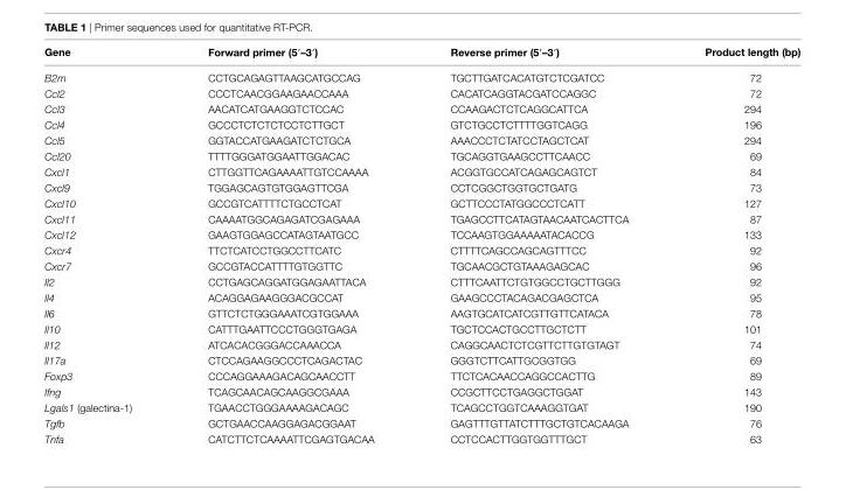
<table><thead><tr><td>gene</td><td>Forward primer (5′–3′)</td><td>reverse primer (5′–3′)</td><td>Product length (bp)</td></tr></thead><tbody><tr><td>B2m</td><td>CCTGCAGAGTTAAGCATGCCAG</td><td>TGCTTGATCACATGTCTCGATCC</td><td>72</td></tr><tr><td>Ccl2</td><td>CCCTCAACGGAAGAACCAAA</td><td>CACATCAGGTACGATCCAGGC</td><td>72</td></tr><tr><td>Ccl3</td><td>AACATCATGAAGGTCTCCAC</td><td>CCAAGACTCTCAGGCATTCA</td><td>294</td></tr><tr><td>Ccl4</td><td>GCCCTCTCTCTCCTCTTGCT</td><td>GTCTGCCTCTTTTGGTCAGG</td><td>196</td></tr><tr><td>Ccl5</td><td>GGTACCATGAAGATCTCTGCA</td><td>AAACCCTCTATCCTAGCTCAT</td><td>294</td></tr><tr><td>Ccl20</td><td>TTTTGGGATGGAATTGGACAC</td><td>TGCAGGTGAAGCCTTCAACC</td><td>69</td></tr><tr><td>Cxcl1</td><td>CTTGGTTCAGAAAATTGTCCAAAA</td><td>ACGGTGCCATCAGAGCAGTCT</td><td>84</td></tr><tr><td>Cxcl9</td><td>TGGAGCAGTGTGGAGTTCGA</td><td>CCTCGGCTGGTGCTGATG</td><td>73</td></tr><tr><td>Cxcl10</td><td>GCCGTCATTTTCTGCCTCAT</td><td>GCTTCCCTATGGCCCTCATT</td><td>127</td></tr><tr><td>Cxcl11</td><td>CAAAATGGCAGAGATCGAGAAA</td><td>TGAGCCTTCATAGTAACAATCACTTCA</td><td>87</td></tr><tr><td>Cxcl12</td><td>GAAGTGGAGCCATAGTAATGCC</td><td>TCCAAGTGGAAAAATACACCG</td><td>133</td></tr><tr><td>Cxcr4</td><td>TTCTCATCCTGGCCTTCATC</td><td>CTTTTCAGCCAGCAGTTTCC</td><td>92</td></tr><tr><td>Cxcr7</td><td>GCCGTACCATTTTGTGGTTC</td><td>TGCAACGCTGTAAAGAGCAC</td><td>96</td></tr><tr><td>Il2</td><td>CCTGAGCAGGATGGAGAATTACA</td><td>CTTTCAATTCTGTGGCCTGCTTGGG</td><td>92</td></tr><tr><td>Il4</td><td>ACAGGAGAAGGGACGCCAT</td><td>GAAGCCCTACAGACGAGCTCA</td><td>95</td></tr><tr><td>Il6</td><td>GTTCTCTGGGAAATCGTGGAAA</td><td>AAGTGCATCATCGTTGTTCATACA</td><td>78</td></tr><tr><td>Il10</td><td>CATTTGAATTCCCTGGGTGAGA</td><td>TGCTCCACTGCCTTGCTCTT</td><td>101</td></tr><tr><td>Il12</td><td>ATCACACGGGACCAAACCA</td><td>CAGGCAACTCTCGTTCTTGTGTAGT</td><td>74</td></tr><tr><td>Il17a</td><td>CTCCAGAAGGCCCTCAGACTAC</td><td>GGGTCTTCATTGCGGTGG</td><td>69</td></tr><tr><td>Foxp3</td><td>CCCAGGAAAGACAGCAACCTT</td><td>TTCTCACAACCAGGCCACTTG</td><td>89</td></tr><tr><td>Ifng</td><td>TCAGCAACAGCAAGGCGAAA</td><td>CCGCTTCCTGAGGCTGGAT</td><td>143</td></tr><tr><td>Lgals1 (galectina-1)</td><td>TGAACCTGGGAAAAGACAGC</td><td>TCAGCCTGGTCAAAGGTGAT</td><td>190</td></tr><tr><td>Tgfb</td><td>GCTGAACCAAGGAGACGGAAT</td><td>GAGTTTGTTATCTTTGCTGTCACAAGA</td><td>76</td></tr><tr><td>Tnfa</td><td>CATCTTCTCAAAATTCGAGTGACAA</td><td>CCTCCACTTGGTGGTTTGCT</td><td>63</td></tr></tbody></table>